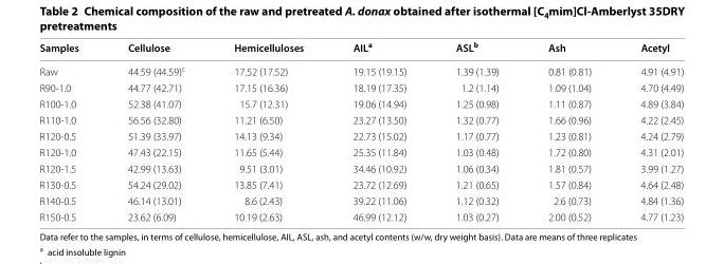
<table><thead><tr><td>Samples</td><td>Cellulose</td><td>Hemicelluloses</td><td>AIL<sup>a</sup></td><td>ASL<sup>b</sup></td><td>Ash</td><td>Acetyl</td></tr></thead><tbody><tr><td>Raw</td><td>44.59 (44.59)<sup>c</sup></td><td>17.52 (17.52)</td><td>19.15 (19.15)</td><td>1.39 (1.39)</td><td>0.81 (0.81)</td><td>4.91 (4.91)</td></tr><tr><td>R90-1.0</td><td>44.77 (42.71)</td><td>17.15 (16.36)</td><td>18.19 (17.35)</td><td>1.2 (1.14)</td><td>1.09 (1.04)</td><td>4.70 (4.49)</td></tr><tr><td>R100-1.0</td><td>52.38 (41.07)</td><td>15.7 (12.31)</td><td>19.06 (14.94)</td><td>1.25 (0.98)</td><td>1.11 (0.87)</td><td>4.89 (3.84)</td></tr><tr><td>R110-1.0</td><td>56.56 (32.80)</td><td>11.21 (6.50)</td><td>23.27 (13.50)</td><td>1.32 (0.77)</td><td>1.66 (0.96)</td><td>4.22 (2.45)</td></tr><tr><td>R120-0.5</td><td>51.39 (33.97)</td><td>14.13 (9.34)</td><td>22.73 (15.02)</td><td>1.17 (0.77)</td><td>1.23 (0.81)</td><td>4.24 (2.79)</td></tr><tr><td>R120-1.0</td><td>47.43 (22.15)</td><td>11.65 (5.44)</td><td>25.35 (11.84)</td><td>1.03 (0.48)</td><td>1.72 (0.80)</td><td>4.31 (2.01)</td></tr><tr><td>R120-1.5</td><td>42.99 (13.63)</td><td>9.51 (3.01)</td><td>34.46 (10.92)</td><td>1.06 (0.34)</td><td>1.81 (0.57)</td><td>3.99 (1.27)</td></tr><tr><td>R130-0.5</td><td>54.24 (29.02)</td><td>13.85 (7.41)</td><td>23.72 (12.69)</td><td>1.21 (0.65)</td><td>1.57 (0.84)</td><td>4.64 (2.48)</td></tr><tr><td>R140-0.5</td><td>46.14 (13.01)</td><td>8.6 (2.43)</td><td>39.22 (11.06)</td><td>1.12 (0.32)</td><td>2.6 (0.73)</td><td>4.84 (1.36)</td></tr><tr><td>R150-0.5</td><td>23.62 (6.09)</td><td>10.19 (2.63)</td><td>46.99 (12.12)</td><td>1.03 (0.27)</td><td>2.00 (0.52)</td><td>4.77 (1.23)</td></tr></tbody></table>